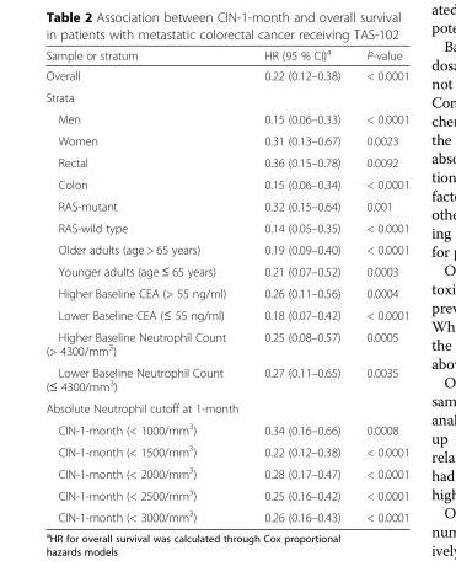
<table><thead><tr><td>Sample or stratum</td><td>HR (95 % CI)<sup>a</sup></td><td>P-value</td></tr></thead><tbody><tr><td>Overall</td><td>0.22 (0.12–0.38)</td><td>&lt; 0.0001</td></tr><tr><td colspan="3">Strata</td></tr><tr><td>Men</td><td>0.15 (0.06–0.33)</td><td>&lt; 0.0001</td></tr><tr><td>Women</td><td>0.31 (0.13–0.67)</td><td>0.0023</td></tr><tr><td>Rectal</td><td>0.36 (0.15–0.78)</td><td>0.0092</td></tr><tr><td>Colon</td><td>0.15 (0.06–0.34)</td><td>&lt; 0.0001</td></tr><tr><td>RAS-mutant</td><td>0.32 (0.15–0.64)</td><td>0.001</td></tr><tr><td>RAS-wild type</td><td>0.14 (0.05–0.35)</td><td>&lt; 0.0001</td></tr><tr><td>Older adults (age &gt; 65 years)</td><td>0.19 (0.09–0.40)</td><td>&lt; 0.0001</td></tr><tr><td>Younger adults (age ≤ 65 years)</td><td>0.21 (0.07–0.52)</td><td>0.0003</td></tr><tr><td>Higher Baseline CEA (&gt; 55 ng/ml)</td><td>0.26 (0.11–0.56)</td><td>0.0004</td></tr><tr><td>Lower Baseline CEA (≤ 55 ng/ml)</td><td>0.18 (0.07–0.42)</td><td>&lt; 0.0001</td></tr><tr><td>Higher Baseline Neutrophil Count (&gt; 4300/mm<sup>3</sup>)</td><td>0.25 (0.08–0.57)</td><td>0.0005</td></tr><tr><td>Lower Baseline Neutrophil Count (≤ 4300/mm<sup>3</sup>)</td><td>0.27 (0.11–0.65)</td><td>0.0035</td></tr><tr><td colspan="3">Absolute Neutrophil cutoff at 1-month</td></tr><tr><td>CIN-1-month (&lt; 1000/mm<sup>3</sup>)</td><td>0.34 (0.16–0.66)</td><td>0.0008</td></tr><tr><td>CIN-1-month (&lt; 1500/mm<sup>3</sup>)</td><td>0.22 (0.12–0.38)</td><td>&lt; 0.0001</td></tr><tr><td>CIN-1-month (&lt; 2000/mm<sup>3</sup>)</td><td>0.28 (0.17–0.47)</td><td>&lt; 0.0001</td></tr><tr><td>CIN-1-month (&lt; 2500/mm<sup>3</sup>)</td><td>0.25 (0.16–0.42)</td><td>&lt; 0.0001</td></tr><tr><td>CIN-1-month (&lt; 3000/mm<sup>3</sup>)</td><td>0.26 (0.16–0.43)</td><td>&lt; 0.0001</td></tr></tbody></table>